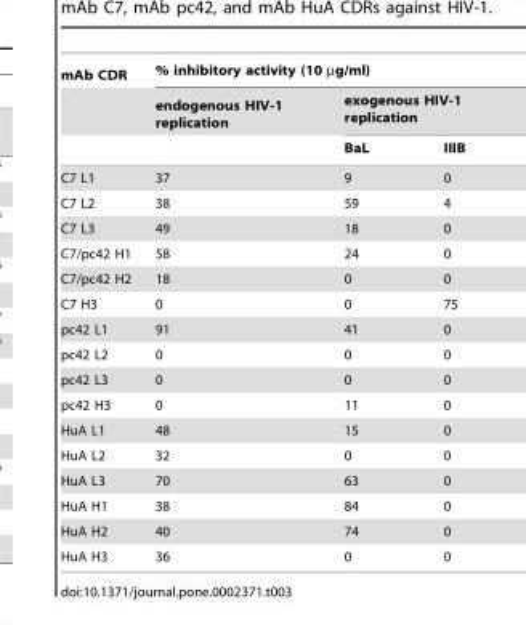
<table><thead><tr><td rowspan="3">mAb CDR</td><td colspan="3">% inhibitory activity (10 µg/ml)</td></tr><tr><td rowspan="2">endogenous HIV-1 replication</td><td colspan="2">exogenous HIV-1 replication</td></tr><tr><td>BaL</td><td>IIIB</td></tr></thead><tbody><tr><td>C7 L1</td><td>37</td><td>9</td><td>0</td></tr><tr><td>C7 L2</td><td>38</td><td>59</td><td>4</td></tr><tr><td>C7 L3</td><td>49</td><td>18</td><td>0</td></tr><tr><td>C7/pc42 H1</td><td>58</td><td>24</td><td>0</td></tr><tr><td>C7/pc42 H2</td><td>18</td><td>0</td><td>0</td></tr><tr><td>C7 H3</td><td>0</td><td>0</td><td>75</td></tr><tr><td>pc42 L1</td><td>91</td><td>41</td><td>0</td></tr><tr><td>pc42 L2</td><td>0</td><td>0</td><td>0</td></tr><tr><td>pc42 L3</td><td>0</td><td>0</td><td>0</td></tr><tr><td>pc42 H3</td><td>0</td><td>11</td><td>0</td></tr><tr><td>HuA L1</td><td>48</td><td>15</td><td>0</td></tr><tr><td>HuA L2</td><td>32</td><td>0</td><td>0</td></tr><tr><td>HuA L3</td><td>70</td><td>63</td><td>0</td></tr><tr><td>HuA H1</td><td>38</td><td>84</td><td>0</td></tr><tr><td>HuA H2</td><td>40</td><td>74</td><td>0</td></tr><tr><td>HuA H3</td><td>36</td><td>0</td><td>0</td></tr></tbody></table>